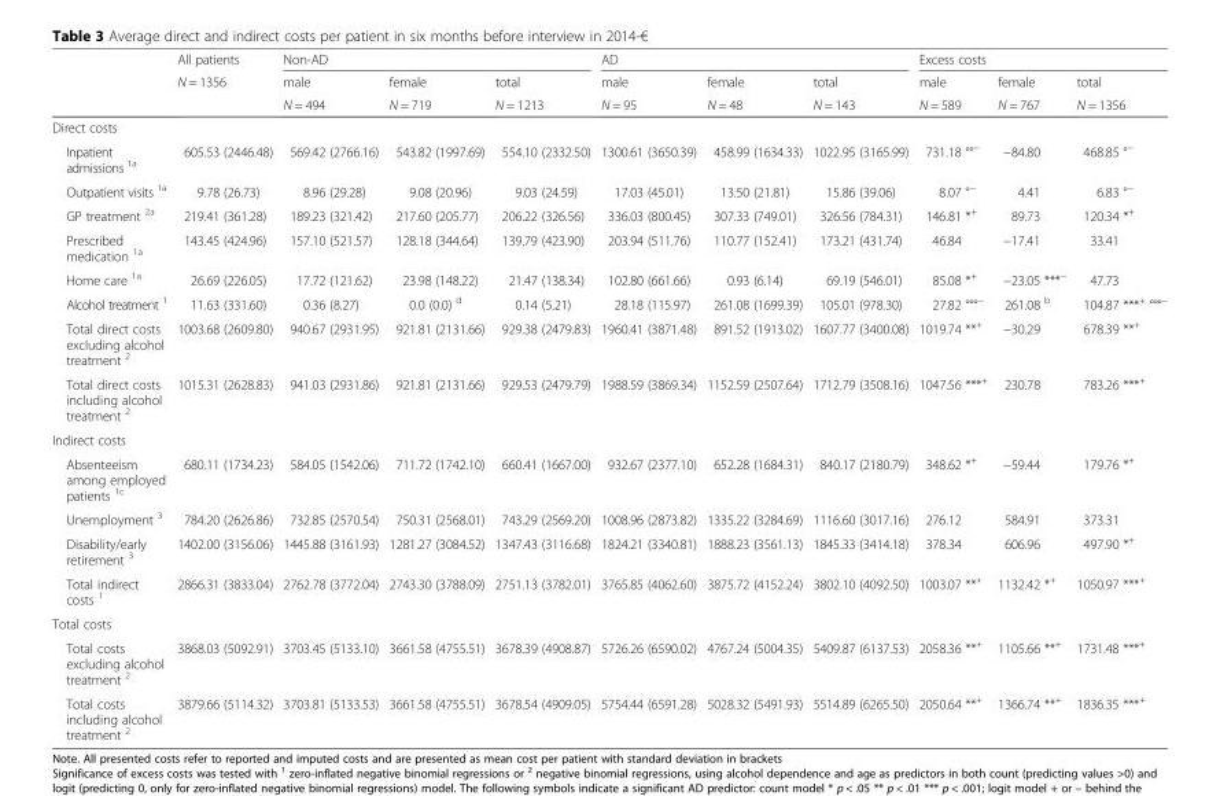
<table><thead><tr><td rowspan="3"></td><td rowspan="3">All patients N = 1356</td><td colspan="3">Non-AD</td><td colspan="3">AD</td><td colspan="3">Excess costs</td></tr><tr><td rowspan="2">male N = 494</td><td rowspan="2">female N = 719</td><td rowspan="2">total N = 1213</td><td rowspan="2">male N = 95</td><td rowspan="2">female N = 48</td><td rowspan="2">total N = 143</td><td rowspan="2">male N = 589</td><td rowspan="2">female N = 767</td><td rowspan="2">total N = 1356</td></tr><tr></tr></thead><tbody><tr><td colspan="11">Direct costs</td></tr><tr><td>Inpatient admissions <sup>1a</sup></td><td>605.53 (2446.48)</td><td>569.42 (2766.16)</td><td>543.82 (1997.69)</td><td>554.10 (2332.50)</td><td>1300.61 (3650.39)</td><td>458.99 (1634.33)</td><td>1022.95 (3165.99)</td><td>731.18 °°<sup>−</sup></td><td>−84.80</td><td>468.85 °<sup>−</sup></td></tr><tr><td>Outpatient visits <sup>1a</sup></td><td>9.78 (26.73)</td><td>8.96 (29.28)</td><td>9.08 (20.96)</td><td>9.03 (24.59)</td><td>17.03 (45.01)</td><td>13.50 (21.81)</td><td>15.86 (39.06)</td><td>8.07 °<sup>−</sup></td><td>4.41</td><td>6.83 °<sup>−</sup></td></tr><tr><td>GP treatment <sup>2a</sup></td><td>219.41 (361.28)</td><td>189.23 (321.42)</td><td>217.60 (205.77)</td><td>206.22 (326.56)</td><td>336.03 (800.45)</td><td>307.33 (749.01)</td><td>326.56 (784.31)</td><td>146.81 *<sup>+</sup></td><td>89.73</td><td>120.34 *<sup>+</sup></td></tr><tr><td>Prescribed medication <sup>1a</sup></td><td>143.45 (424.96)</td><td>157.10 (521.57)</td><td>128.18 (344.64)</td><td>139.79 (423.90)</td><td>203.94 (511.76)</td><td>110.77 (152.41)</td><td>173.21 (431.74)</td><td>46.84</td><td>−17.41</td><td>33.41</td></tr><tr><td>Home care <sup>1a</sup></td><td>26.69 (226.05)</td><td>17.72 (121.62)</td><td>23.98 (148.22)</td><td>21.47 (138.34)</td><td>102.80 (661.66)</td><td>0.93 (6.14)</td><td>69.19 (546.01)</td><td>85.08 *<sup>+</sup></td><td>−23.05 ***<sup>−</sup></td><td>47.73</td></tr><tr><td>Alcohol treatment <sup>1</sup></td><td>11.63 (331.60)</td><td>0.36 (8.27)</td><td>0.0 (0.0) <sup>d</sup></td><td>0.14 (5.21)</td><td>28.18 (115.97)</td><td>261.08 (1699.39)</td><td>105.01 (978.30)</td><td>27.82 °°°<sup>−</sup></td><td>261.08 <sup>b</sup></td><td>104.87 ***<sup>+</sup> °°°<sup>−</sup></td></tr><tr><td>Total direct costs excluding alcohol treatment <sup>2</sup></td><td>1003.68 (2609.80)</td><td>940.67 (2931.95)</td><td>921.81 (2131.66)</td><td>929.38 (2479.83)</td><td>1960.41 (3871.48)</td><td>891.52 (1913.02)</td><td>1607.77 (3400.08)</td><td>1019.74 **<sup>+</sup></td><td>−30.29</td><td>678.39 **<sup>+</sup></td></tr><tr><td>Total direct costs including alcohol treatment <sup>2</sup></td><td>1015.31 (2628.83)</td><td>941.03 (2931.86)</td><td>921.81 (2131.66)</td><td>929.53 (2479.79)</td><td>1988.59 (3869.34)</td><td>1152.59 (2507.64)</td><td>1712.79 (3508.16)</td><td>1047.56 ***<sup>+</sup></td><td>230.78</td><td>783.26 ***<sup>+</sup></td></tr><tr><td colspan="11">Indirect costs</td></tr><tr><td>Absenteeism among employed patients <sup>1c</sup></td><td>680.11 (1734.23)</td><td>584.05 (1542.06)</td><td>711.72 (1742.10)</td><td>660.41 (1667.00)</td><td>932.67 (2377.10)</td><td>652.28 (1684.31)</td><td>840.17 (2180.79)</td><td>348.62 *<sup>+</sup></td><td>−59.44</td><td>179.76 *<sup>+</sup></td></tr><tr><td>Unemployment <sup>3</sup></td><td>784.20 (2626.86)</td><td>732.85 (2570.54)</td><td>750.31 (2568.01)</td><td>743.29 (2569.20)</td><td>1008.96 (2873.82)</td><td>1335.22 (3284.69)</td><td>1116.60 (3017.16)</td><td>276.12</td><td>584.91</td><td>373.31</td></tr><tr><td>Disability/early retirement <sup>3</sup></td><td>1402.00 (3156.06)</td><td>1445.88 (3161.93)</td><td>1281.27 (3084.52)</td><td>1347.43 (3116.68)</td><td>1824.21 (3340.81)</td><td>1888.23 (3561.13)</td><td>1845.33 (3414.18)</td><td>378.34</td><td>606.96</td><td>497.90 *<sup>+</sup></td></tr><tr><td>Total indirect costs <sup>1</sup></td><td>2866.31 (3833.04)</td><td>2762.78 (3772.04)</td><td>2743.30 (3788.09)</td><td>2751.13 (3782.01)</td><td>3765.85 (4062.60)</td><td>3875.72 (4152.24)</td><td>3802.10 (4092.50)</td><td>1003.07 **<sup>+</sup></td><td>1132.42 *<sup>+</sup></td><td>1050.97 ***<sup>+</sup></td></tr><tr><td colspan="11">Total costs</td></tr><tr><td>Total costs excluding alcohol treatment <sup>2</sup></td><td>3868.03 (5092.91)</td><td>3703.45 (5133.10)</td><td>3661.58 (4755.51)</td><td>3678.39 (4908.87)</td><td>5726.26 (6590.02)</td><td>4767.24 (5004.35)</td><td>5409.87 (6137.53)</td><td>2058.36 **<sup>+</sup></td><td>1105.66 **<sup>+</sup></td><td>1731.48 ***<sup>+</sup></td></tr><tr><td>Total costs including alcohol treatment <sup>2</sup></td><td>3879.66 (5114.32)</td><td>3703.81 (5133.53)</td><td>3661.58 (4755.51)</td><td>3678.54 (4909.05)</td><td>5754.44 (6591.28)</td><td>5028.32 (5491.93)</td><td>5514.89 (6265.50)</td><td>2050.64 **<sup>+</sup></td><td>1366.74 **<sup>+</sup></td><td>1836.35 ***<sup>+</sup></td></tr></tbody></table>